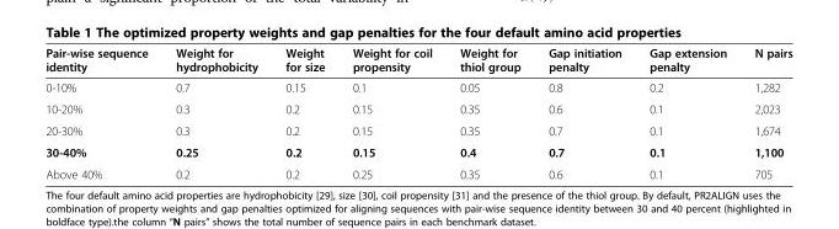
<table><thead><tr><td>Pair-wise sequence identity</td><td>Weight for hydrophobicity</td><td>Weight for size</td><td>Weight for coil propensity</td><td>Weight for thiol group</td><td>Gap initiation penalty</td><td>Gap extension penalty</td><td>N pairs</td></tr></thead><tbody><tr><td>0-10%</td><td>0.7</td><td>0.15</td><td>0.1</td><td>0.05</td><td>0.8</td><td>0.2</td><td>1,282</td></tr><tr><td>10-20%</td><td>0.3</td><td>0.2</td><td>0.15</td><td>0.35</td><td>0.6</td><td>0.1</td><td>2,023</td></tr><tr><td>20-30%</td><td>0.3</td><td>0.2</td><td>0.15</td><td>0.35</td><td>0.7</td><td>0.1</td><td>1,674</td></tr><tr><td>30-40%</td><td>0.25</td><td>0.2</td><td>0.15</td><td>0.4</td><td>0.7</td><td>0.1</td><td>1,100</td></tr><tr><td>Above 40%</td><td>0.2</td><td>0.2</td><td>0.25</td><td>0.35</td><td>0.6</td><td>0.1</td><td>705</td></tr></tbody></table>